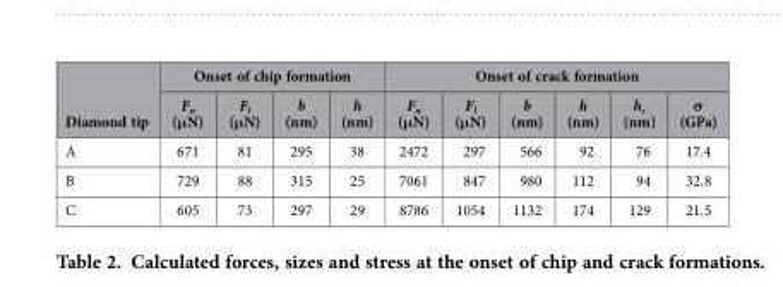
<table><thead><tr><td rowspan="2">Diamond tip</td><td colspan="4">Onset of chip formation</td><td colspan="6">Onset of crack formation</td></tr><tr><td>F<sub>n</sub> (μN)</td><td>F<sub>l</sub> (μN)</td><td>b (nm)</td><td>h (nm)</td><td>F<sub>n</sub> (μN)</td><td>F<sub>l</sub> (μN)</td><td>b (nm)</td><td>h (nm)</td><td>h<sub>c</sub> (nm)</td><td>σ (GPa)</td></tr></thead><tbody><tr><td>A</td><td>671</td><td>81</td><td>295</td><td>38</td><td>2472</td><td>297</td><td>566</td><td>92</td><td>76</td><td>17.4</td></tr><tr><td>B</td><td>729</td><td>88</td><td>315</td><td>25</td><td>7061</td><td>847</td><td>980</td><td>112</td><td>94</td><td>32.8</td></tr><tr><td>C</td><td>605</td><td>73</td><td>297</td><td>29</td><td>8786</td><td>1054</td><td>1132</td><td>174</td><td>129</td><td>21.5</td></tr></tbody></table>